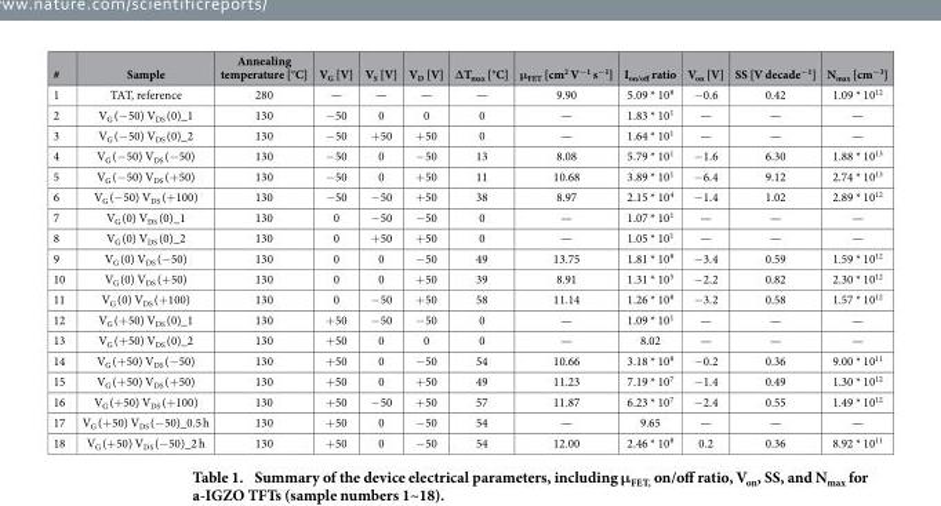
<table><thead><tr><td>#</td><td>Sample</td><td>Annealing temperature [°C]</td><td>V<sub>G</sub> [V]</td><td>V<sub>S</sub> [V]</td><td>V<sub>D</sub> [V]</td><td>∆T<sub>max</sub> [°C]</td><td>μ<sub>FET</sub> [cm<sup>2</sup> V<sup>−1</sup> s<sup>−1</sup>]</td><td>I<sub>on/off</sub> ratio</td><td>V<sub>on</sub> [V]</td><td>SS [V decade<sup>−1</sup>]</td><td>N<sub>max</sub> [cm<sup>−3</sup>]</td></tr></thead><tbody><tr><td>1</td><td>TAT, reference</td><td>280</td><td>—</td><td>—</td><td>—</td><td>—</td><td>9.90</td><td>5.09 * 10<sup>8</sup></td><td>− 0.6</td><td>0.42</td><td>1.09 * 10<sup>12</sup></td></tr><tr><td>2</td><td>V<sub>G</sub> (− 50) V<sub>DS</sub> (0)_1</td><td>130</td><td>− 50</td><td>0</td><td>0</td><td>0</td><td>—</td><td>1.83 * 10<sup>1</sup></td><td>—</td><td>—</td><td>—</td></tr><tr><td>3</td><td>V<sub>G</sub> (− 50) V<sub>DS</sub> (0)_2</td><td>130</td><td>− 50</td><td>+ 50</td><td>+ 50</td><td>0</td><td>—</td><td>1.64 * 10<sup>1</sup></td><td>—</td><td>—</td><td>—</td></tr><tr><td>4</td><td>V<sub>G</sub> (− 50) V<sub>DS</sub> (− 50)</td><td>130</td><td>− 50</td><td>0</td><td>− 50</td><td>13</td><td>8.08</td><td>5.79 * 10<sup>1</sup></td><td>− 1.6</td><td>6.30</td><td>1.88 * 10<sup>13</sup></td></tr><tr><td>5</td><td>V<sub>G</sub> (− 50) V<sub>DS</sub> (+ 50)</td><td>130</td><td>− 50</td><td>0</td><td>+ 50</td><td>11</td><td>10.68</td><td>3.89 * 10<sup>1</sup></td><td>− 6.4</td><td>9.12</td><td>2.74 * 10<sup>13</sup></td></tr><tr><td>6</td><td>V<sub>G</sub> (− 50) V<sub>DS</sub> (+ 100)</td><td>130</td><td>− 50</td><td>− 50</td><td>+ 50</td><td>38</td><td>8.97</td><td>2.15 * 10<sup>4</sup></td><td>− 1.4</td><td>1.02</td><td>2.89 * 10<sup>12</sup></td></tr><tr><td>7</td><td>V<sub>G</sub> (0) V<sub>DS</sub> (0)_1</td><td>130</td><td>0</td><td>− 50</td><td>− 50</td><td>0</td><td>—</td><td>1.07 * 10<sup>1</sup></td><td>—</td><td>—</td><td>—</td></tr><tr><td>8</td><td>V<sub>G</sub> (0) V<sub>DS</sub> (0)_2</td><td>130</td><td>0</td><td>+ 50</td><td>+ 50</td><td>0</td><td>—</td><td>1.05 * 10<sup>1</sup></td><td>—</td><td>—</td><td>—</td></tr><tr><td>9</td><td>V<sub>G</sub> (0) V<sub>DS</sub> (− 50)</td><td>130</td><td>0</td><td>0</td><td>− 50</td><td>49</td><td>13.75</td><td>1.81 * 10<sup>8</sup></td><td>− 3.4</td><td>0.59</td><td>1.59 * 10<sup>12</sup></td></tr><tr><td>10</td><td>V<sub>G</sub> (0) V<sub>DS</sub> (+ 50)</td><td>130</td><td>0</td><td>0</td><td>+ 50</td><td>39</td><td>8.91</td><td>1.31 * 10<sup>5</sup></td><td>− 2.2</td><td>0.82</td><td>2.30 * 10<sup>12</sup></td></tr><tr><td>11</td><td>V<sub>G</sub> (0) V<sub>DS</sub> (+ 100)</td><td>130</td><td>0</td><td>− 50</td><td>+ 50</td><td>58</td><td>11.14</td><td>1.26 * 10<sup>8</sup></td><td>− 3.2</td><td>0.58</td><td>1.57 * 10<sup>12</sup></td></tr><tr><td>12</td><td>V<sub>G</sub> (+ 50) V<sub>DS</sub> (0)_1</td><td>130</td><td>+ 50</td><td>− 50</td><td>− 50</td><td>0</td><td>—</td><td>1.09 * 10<sup>1</sup></td><td>—</td><td>—</td><td>—</td></tr><tr><td>13</td><td>V<sub>G</sub> (+ 50) V<sub>DS</sub> (0)_2</td><td>130</td><td>+ 50</td><td>0</td><td>0</td><td>0</td><td>—</td><td>8.02</td><td>—</td><td>—</td><td>—</td></tr><tr><td>14</td><td>V<sub>G</sub> (+ 50) V<sub>DS</sub> (− 50)</td><td>130</td><td>+ 50</td><td>0</td><td>− 50</td><td>54</td><td>10.66</td><td>3.18 * 10<sup>8</sup></td><td>− 0.2</td><td>0.36</td><td>9.00 * 10<sup>11</sup></td></tr><tr><td>15</td><td>V<sub>G</sub> (+ 50) V<sub>DS</sub> (+ 50)</td><td>130</td><td>+ 50</td><td>0</td><td>+ 50</td><td>49</td><td>11.23</td><td>7.19 * 10<sup>7</sup></td><td>− 1.4</td><td>0.49</td><td>1.30 * 10<sup>12</sup></td></tr><tr><td>16</td><td>V<sub>G</sub> (+ 50) V<sub>DS</sub> (+ 100)</td><td>130</td><td>+ 50</td><td>− 50</td><td>+ 50</td><td>57</td><td>11.87</td><td>6.23 * 10<sup>7</sup></td><td>− 2.4</td><td>0.55</td><td>1.49 * 10<sup>12</sup></td></tr><tr><td>17</td><td>V<sub>G</sub> (+ 50) V<sub>DS</sub> (− 50)_0.5 h</td><td>130</td><td>+ 50</td><td>0</td><td>− 50</td><td>54</td><td>—</td><td>9.65</td><td>—</td><td>—</td><td>—</td></tr><tr><td>18</td><td>V<sub>G</sub> (+ 50) V<sub>DS</sub> (− 50)_2 h</td><td>130</td><td>+ 50</td><td>0</td><td>− 50</td><td>54</td><td>12.00</td><td>2.46 * 10<sup>8</sup></td><td>0.2</td><td>0.36</td><td>8.92 * 10<sup>11</sup></td></tr></tbody></table>